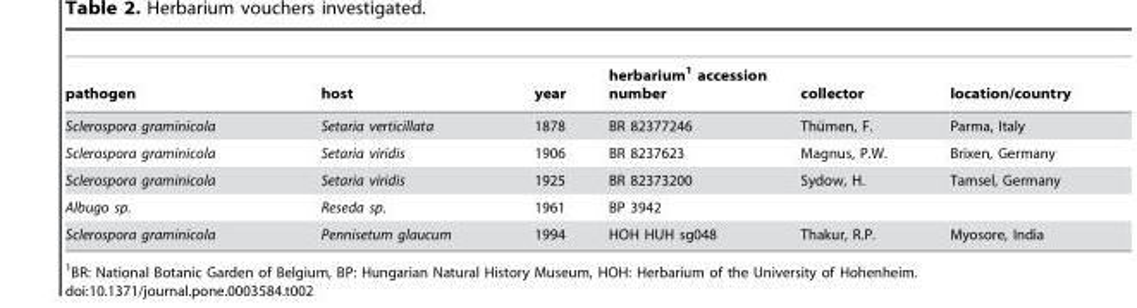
<table><thead><tr><td>pathogen</td><td>host</td><td>year</td><td>herbarium<sup>1</sup> accession number</td><td>collector</td><td>location/country</td></tr></thead><tbody><tr><td>Sclerospora graminicola</td><td>Setaria verticillata</td><td>1878</td><td>BR 82377246</td><td>Thu¨men, F.</td><td>Parma, Italy</td></tr><tr><td>Sclerospora graminicola</td><td>Setaria viridis</td><td>1906</td><td>BR 8237623</td><td>Magnus, P.W.</td><td>Brixen, Germany</td></tr><tr><td>Sclerospora graminicola</td><td>Setaria viridis</td><td>1925</td><td>BR 82373200</td><td>Sydow, H.</td><td>Tamsel, Germany</td></tr><tr><td>Albugo sp.</td><td>Reseda sp.</td><td>1961</td><td>BP 3942</td><td></td><td></td></tr><tr><td>Sclerospora graminicola</td><td>Pennisetum glaucum</td><td>1994</td><td>HOH HUH sg048</td><td>Thakur, R.P.</td><td>Myosore, India</td></tr></tbody></table>